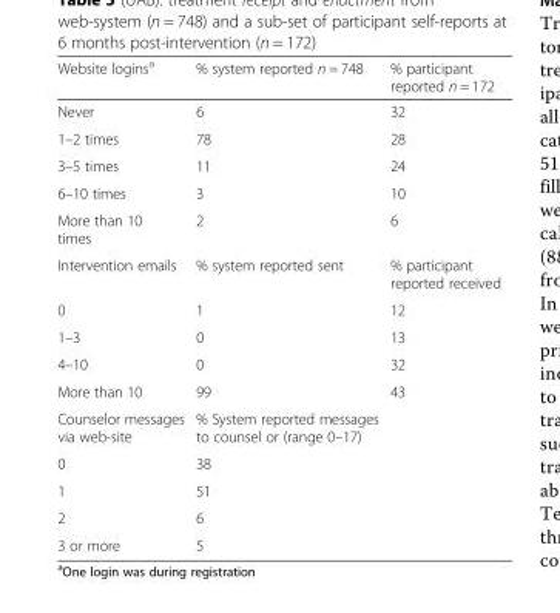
<table><thead><tr><td>Website logins<sup>a</sup></td><td>% system reported n = 748</td><td>% participant reported n = 172</td></tr></thead><tbody><tr><td>Never</td><td>6</td><td>32</td></tr><tr><td>1–2 times</td><td>78</td><td>28</td></tr><tr><td>3–5 times</td><td>11</td><td>24</td></tr><tr><td>6–10 times</td><td>3</td><td>10</td></tr><tr><td>More than 10 times</td><td>2</td><td>6</td></tr><tr><td>Intervention emails</td><td>% system reported sent</td><td>% participant reported received</td></tr><tr><td>0</td><td>1</td><td>12</td></tr><tr><td>1–3</td><td>0</td><td>13</td></tr><tr><td>4–10</td><td>0</td><td>32</td></tr><tr><td>More than 10</td><td>99</td><td>43</td></tr><tr><td>Counselor messages via web-site</td><td>% System reported messages to counsel or (range 0–17)</td><td></td></tr><tr><td>0</td><td>38</td><td></td></tr><tr><td>1</td><td>51</td><td></td></tr><tr><td>2</td><td>6</td><td></td></tr><tr><td>3 or more</td><td>5</td><td></td></tr></tbody></table>